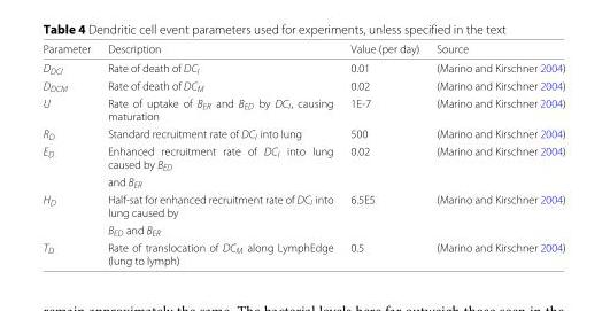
<table><thead><tr><td>Parameter</td><td>Description</td><td>Value (per day)</td><td>Source</td></tr></thead><tbody><tr><td>D<sub>DCI</sub></td><td>Rate of death of DC<sub>I</sub></td><td>0.01</td><td>(Marino and Kirschner 2004)</td></tr><tr><td>D<sub>DCM</sub></td><td>Rate of death of DC<sub>M</sub></td><td>0.02</td><td>(Marino and Kirschner 2004)</td></tr><tr><td>U</td><td>Rate of uptake of B<sub>ER</sub> and B<sub>ED</sub> by DC<sub>I</sub>, causing maturation</td><td>1E-7</td><td>(Marino and Kirschner 2004)</td></tr><tr><td>R<sub>D</sub></td><td>Standard recruitment rate of DC<sub>I</sub> into lung</td><td>500</td><td>(Marino and Kirschner 2004)</td></tr><tr><td rowspan="2">E<sub>D</sub></td><td>Enhanced recruitment rate of DC<sub>I</sub> into lung caused by B<sub>ED</sub></td><td>0.02</td><td>(Marino and Kirschner 2004)</td></tr><tr><td>and B<sub>ER</sub></td><td></td><td></td></tr><tr><td rowspan="2">H<sub>D</sub></td><td>Half-sat for enhanced recruitment rate of DC<sub>I</sub> into lung caused by</td><td>6.5E5</td><td>(Marino and Kirschner 2004)</td></tr><tr><td>B<sub>ED</sub> and B<sub>ER</sub></td><td></td><td></td></tr><tr><td>T<sub>D</sub></td><td>Rate of translocation of DC<sub>M</sub> along LymphEdge (lung to lymph)</td><td>0.5</td><td>(Marino and Kirschner 2004)</td></tr></tbody></table>